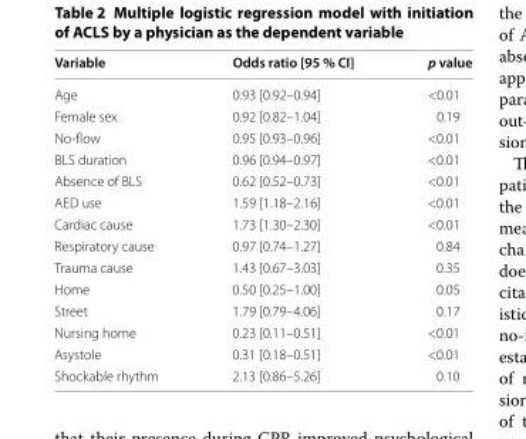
<table><thead><tr><td>Variable</td><td>Odds ratio [95 % CI]</td><td>p value</td></tr></thead><tbody><tr><td>Age</td><td>0.93 [0.92–0.94]</td><td>&lt;0.01</td></tr><tr><td>Female sex</td><td>0.92 [0.82–1.04]</td><td>0.19</td></tr><tr><td>No‑flow</td><td>0.95 [0.93–0.96]</td><td>&lt;0.01</td></tr><tr><td>BLS duration</td><td>0.96 [0.94–0.97]</td><td>&lt;0.01</td></tr><tr><td>Absence of BLS</td><td>0.62 [0.52–0.73]</td><td>&lt;0.01</td></tr><tr><td>AED use</td><td>1.59 [1.18–2.16]</td><td>&lt;0.01</td></tr><tr><td>Cardiac cause</td><td>1.73 [1.30–2.30]</td><td>&lt;0.01</td></tr><tr><td>Respiratory cause</td><td>0.97 [0.74–1.27]</td><td>0.84</td></tr><tr><td>Trauma cause</td><td>1.43 [0.67–3.03]</td><td>0.35</td></tr><tr><td>Home</td><td>0.50 [0.25–1.00]</td><td>0.05</td></tr><tr><td>Street</td><td>1.79 [0.79–4.06]</td><td>0.17</td></tr><tr><td>Nursing home</td><td>0.23 [0.11–0.51]</td><td>&lt;0.01</td></tr><tr><td>Asystole</td><td>0.31 [0.18–0.51]</td><td>&lt;0.01</td></tr><tr><td>Shockable rhythm</td><td>2.13 [0.86–5.26]</td><td>0.10</td></tr></tbody></table>